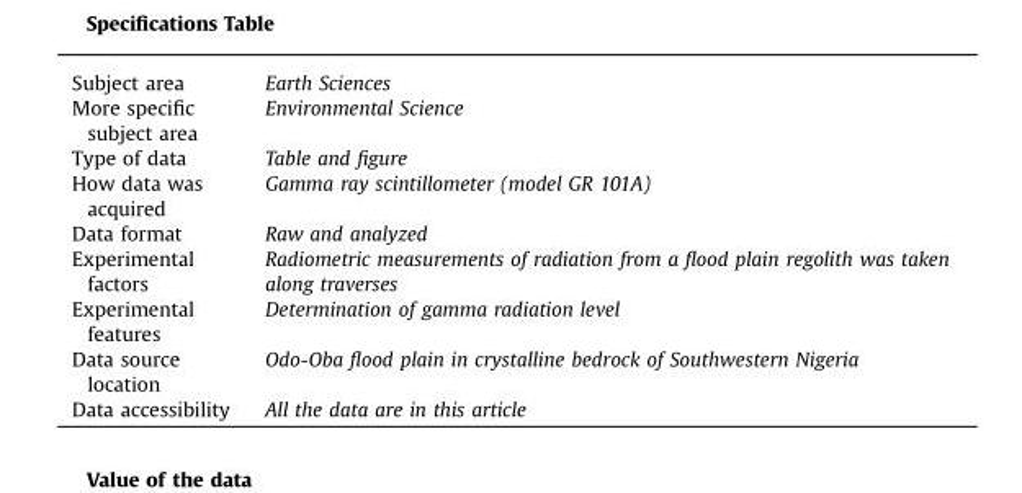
<table><tbody><tr><td>Subject area</td><td>Earth Sciences</td></tr><tr><td>More specific subject area</td><td>Environmental Science</td></tr><tr><td>Type of data</td><td>Table and figure</td></tr><tr><td>How data was acquired</td><td>Gamma ray scintillometer (model GR 101A)</td></tr><tr><td>Data format</td><td>Raw and analyzed</td></tr><tr><td>Experimental factors</td><td>Radiometric measurements of radiation from a flood plain regolith was taken along traverses</td></tr><tr><td>Experimental features</td><td>Determination of gamma radiation level</td></tr><tr><td>Data source location</td><td>Odo-Oba flood plain in crystalline bedrock of Southwestern Nigeria</td></tr><tr><td>Data accessibility</td><td>All the data are in this article</td></tr></tbody></table>